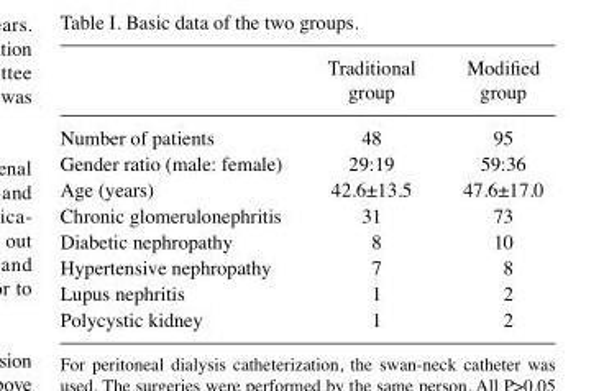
<table><thead><tr><td></td><td>Traditional group</td><td>Modified group</td></tr></thead><tbody><tr><td>Number of patients</td><td>48</td><td>95</td></tr><tr><td>Gender ratio (male: female)</td><td>29:19</td><td>59:36</td></tr><tr><td>Age (years)</td><td>42.6±13.5</td><td>47.6±17.0</td></tr><tr><td>Chronic glomerulonephritis</td><td>31</td><td>73</td></tr><tr><td>Diabetic nephropathy</td><td>8</td><td>10</td></tr><tr><td>Hypertensive nephropathy</td><td>7</td><td>8</td></tr><tr><td>Lupus nephritis</td><td>1</td><td>2</td></tr><tr><td>Polycystic kidney</td><td>1</td><td>2</td></tr></tbody></table>